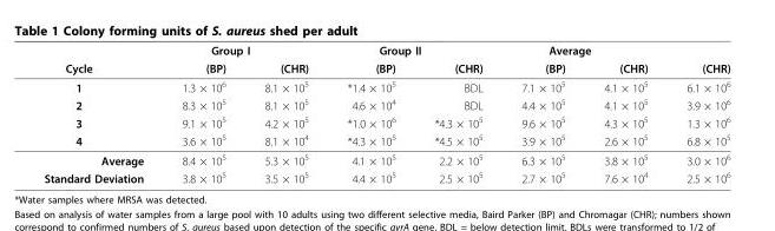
<table><thead><tr><td rowspan="2">Cycle</td><td colspan="2">Group I</td><td colspan="2">Group II</td><td colspan="2">Average</td><td rowspan="2">(CHR)</td></tr><tr><td>(BP)</td><td>(CHR)</td><td>(BP)</td><td>(CHR)</td><td>(BP)</td><td>(CHR)</td></tr></thead><tbody><tr><td>1</td><td>1.3 × 10<sup>6</sup></td><td>8.1 × 10<sup>5</sup></td><td>*1.4 × 10<sup>5</sup></td><td>BDL</td><td>7.1 × 10<sup>5</sup></td><td>4.1 × 10<sup>5</sup></td><td>6.1 × 10<sup>6</sup></td></tr><tr><td>2</td><td>8.3 × 10<sup>5</sup></td><td>8.1 × 10<sup>5</sup></td><td>4.6 × 10<sup>4</sup></td><td>BDL</td><td>4.4 × 10<sup>5</sup></td><td>4.1 × 10<sup>5</sup></td><td>3.9 × 10<sup>6</sup></td></tr><tr><td>3</td><td>9.1 × 10<sup>5</sup></td><td>4.2 × 10<sup>5</sup></td><td>*1.0 × 10<sup>6</sup></td><td>*4.3 × 10<sup>5</sup></td><td>9.6 × 10<sup>5</sup></td><td>4.3 × 10<sup>5</sup></td><td>1.3 × 10<sup>6</sup></td></tr><tr><td>4</td><td>3.6 × 10<sup>5</sup></td><td>8.1 × 10<sup>4</sup></td><td>*4.3 × 10<sup>5</sup></td><td>*4.5 × 10<sup>5</sup></td><td>3.9 × 10<sup>5</sup></td><td>2.6 × 10<sup>5</sup></td><td>6.8 × 10<sup>5</sup></td></tr><tr><td>Average</td><td>8.4 × 10<sup>5</sup></td><td>5.3 × 10<sup>5</sup></td><td>4.1 × 10<sup>5</sup></td><td>2.2 × 10<sup>5</sup></td><td>6.3 × 10<sup>5</sup></td><td>3.8 × 10<sup>5</sup></td><td>3.0 × 10<sup>6</sup></td></tr><tr><td>Standard Deviation</td><td>3.8 × 10<sup>5</sup></td><td>3.5 × 10<sup>5</sup></td><td>4.4 × 10<sup>5</sup></td><td>2.5 × 10<sup>5</sup></td><td>2.7 × 10<sup>5</sup></td><td>7.6 × 10<sup>4</sup></td><td>2.5 × 10<sup>6</sup></td></tr></tbody></table>